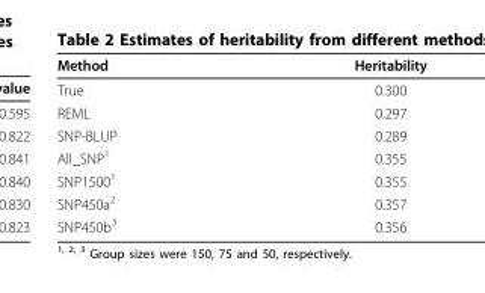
<table><thead><tr><td>Method</td><td>Heritability</td></tr></thead><tbody><tr><td>True</td><td>0.300</td></tr><tr><td>REML</td><td>0.297</td></tr><tr><td>SNP-BLUP</td><td>0.289</td></tr><tr><td>All_SNP<sup>1</sup></td><td>0.355</td></tr><tr><td>SNP1500<sup>1</sup></td><td>0.355</td></tr><tr><td>SNP450a<sup>2</sup></td><td>0.357</td></tr><tr><td>SNP450b<sup>3</sup></td><td>0.356</td></tr></tbody></table>